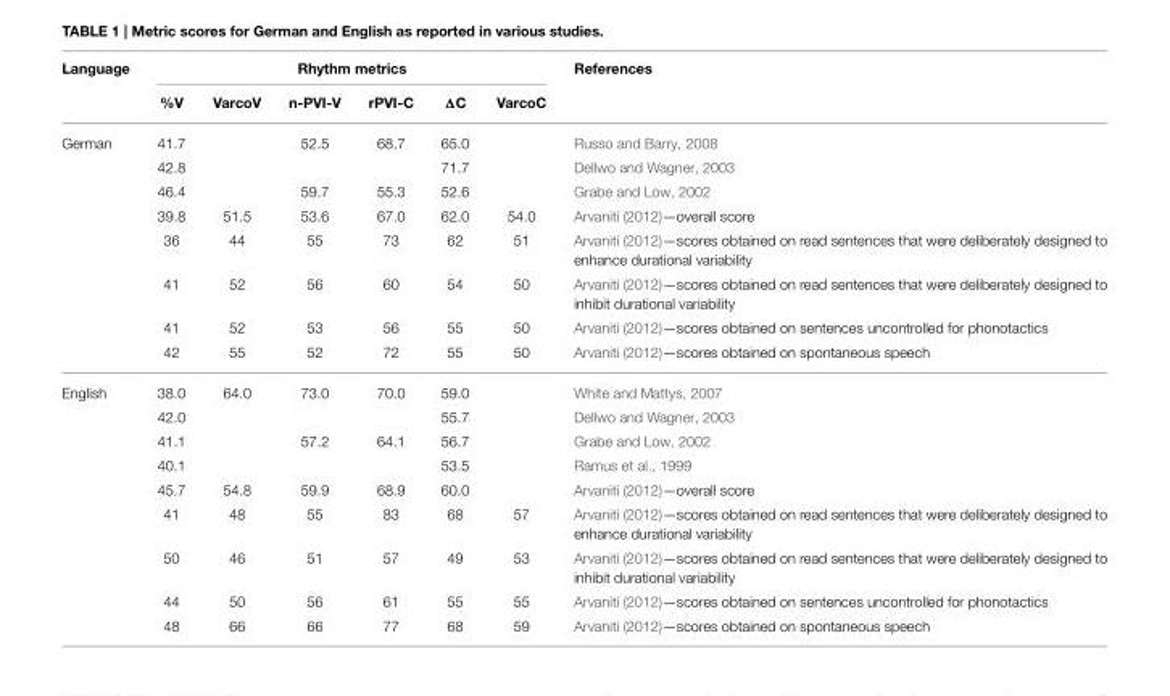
<table><thead><tr><td rowspan="2">Language</td><td colspan="6">Rhythm metrics</td><td rowspan="2">References</td></tr><tr><td>%V</td><td>VarcoV</td><td>n-PVI-V</td><td>rPVI-C</td><td>ΔC</td><td>VarcoC</td></tr></thead><tbody><tr><td rowspan="8">German</td><td>41.7</td><td></td><td>52.5</td><td>68.7</td><td>65.0</td><td></td><td>Russo and Barry, 2008</td></tr><tr><td>42.8</td><td></td><td></td><td></td><td>71.7</td><td></td><td>Dellwo and Wagner, 2003</td></tr><tr><td>46.4</td><td></td><td>59.7</td><td>55.3</td><td>52.6</td><td></td><td>Grabe and Low, 2002</td></tr><tr><td>39.8</td><td>51.5</td><td>53.6</td><td>67.0</td><td>62.0</td><td>54.0</td><td>Arvaniti (2012)—overall score</td></tr><tr><td>36</td><td>44</td><td>55</td><td>73</td><td>62</td><td>51</td><td>Arvaniti (2012)—scores obtained on read sentences that were deliberately designed to enhance durational variability</td></tr><tr><td>41</td><td>52</td><td>56</td><td>60</td><td>54</td><td>50</td><td>Arvaniti (2012)—scores obtained on read sentences that were deliberately designed to inhibit durational variability</td></tr><tr><td>41</td><td>52</td><td>53</td><td>56</td><td>55</td><td>50</td><td>Arvaniti (2012)—scores obtained on sentences uncontrolled for phonotactics</td></tr><tr><td>42</td><td>55</td><td>52</td><td>72</td><td>55</td><td>50</td><td>Arvaniti (2012)—scores obtained on spontaneous speech</td></tr><tr><td rowspan="9">English</td><td>38.0</td><td>64.0</td><td>73.0</td><td>70.0</td><td>59.0</td><td></td><td>White and Mattys, 2007</td></tr><tr><td>42.0</td><td></td><td></td><td></td><td>55.7</td><td></td><td>Dellwo and Wagner, 2003</td></tr><tr><td>41.1</td><td></td><td>57.2</td><td>64.1</td><td>56.7</td><td></td><td>Grabe and Low, 2002</td></tr><tr><td>40.1</td><td></td><td></td><td></td><td>53.5</td><td></td><td>Ramus et al., 1999</td></tr><tr><td>45.7</td><td>54.8</td><td>59.9</td><td>68.9</td><td>60.0</td><td></td><td>Arvaniti (2012)—overall score</td></tr><tr><td>41</td><td>48</td><td>55</td><td>83</td><td>68</td><td>57</td><td>Arvaniti (2012)—scores obtained on read sentences that were deliberately designed to enhance durational variability</td></tr><tr><td>50</td><td>46</td><td>51</td><td>57</td><td>49</td><td>53</td><td>Arvaniti (2012)—scores obtained on read sentences that were deliberately designed to inhibit durational variability</td></tr><tr><td>44</td><td>50</td><td>56</td><td>61</td><td>55</td><td>55</td><td>Arvaniti (2012)—scores obtained on sentences uncontrolled for phonotactics</td></tr><tr><td>48</td><td>66</td><td>66</td><td>77</td><td>68</td><td>59</td><td>Arvaniti (2012)—scores obtained on spontaneous speech</td></tr></tbody></table>